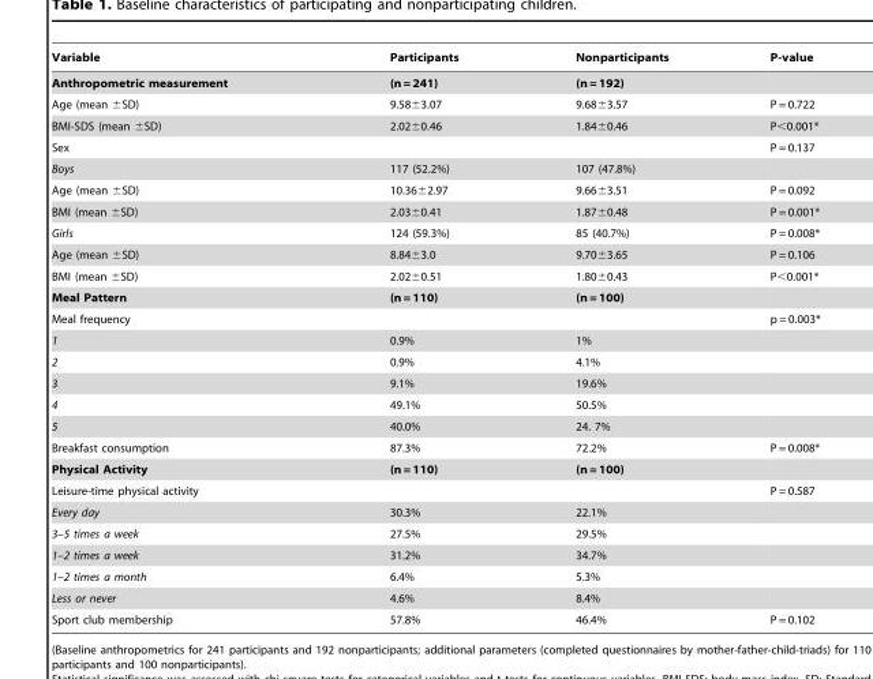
<table><thead><tr><td>Variable</td><td>Participants</td><td>Nonparticipants</td><td>P-value</td></tr></thead><tbody><tr><td>Anthropometric measurement</td><td>(n = 241)</td><td>(n = 192)</td><td></td></tr><tr><td>Age (mean ±SD)</td><td>9.58±3.07</td><td>9.68±3.57</td><td>P = 0.722</td></tr><tr><td>BMI-SDS (mean ±SD)</td><td>2.02±0.46</td><td>1.84±0.46</td><td>P&lt;0.001*</td></tr><tr><td>Sex</td><td></td><td></td><td>P = 0.137</td></tr><tr><td>Boys</td><td>117 (52.2%)</td><td>107 (47.8%)</td><td></td></tr><tr><td>Age (mean ±SD)</td><td>10.36±2.97</td><td>9.66±3.51</td><td>P = 0.092</td></tr><tr><td>BMI (mean ±SD)</td><td>2.03±0.41</td><td>1.87±0.48</td><td>P = 0.001*</td></tr><tr><td>Girls</td><td>124 (59.3%)</td><td>85 (40.7%)</td><td>P = 0.008*</td></tr><tr><td>Age (mean ±SD)</td><td>8.84±3.0</td><td>9.70±3.65</td><td>P = 0.106</td></tr><tr><td>BMI (mean ±SD)</td><td>2.02±0.51</td><td>1.80±0.43</td><td>P&lt;0.001*</td></tr><tr><td>Meal Pattern</td><td>(n = 110)</td><td>(n = 100)</td><td></td></tr><tr><td>Meal frequency</td><td></td><td></td><td>p = 0.003*</td></tr><tr><td>1</td><td>0.9%</td><td>1%</td><td></td></tr><tr><td>2</td><td>0.9%</td><td>4.1%</td><td></td></tr><tr><td>3</td><td>9.1%</td><td>19.6%</td><td></td></tr><tr><td>4</td><td>49.1%</td><td>50.5%</td><td></td></tr><tr><td>5</td><td>40.0%</td><td>24. 7%</td><td></td></tr><tr><td>Breakfast consumption</td><td>87.3%</td><td>72.2%</td><td>P = 0.008*</td></tr><tr><td>Physical Activity</td><td>(n = 110)</td><td>(n = 100)</td><td></td></tr><tr><td>Leisure-time physical activity</td><td></td><td></td><td>P = 0.587</td></tr><tr><td>Every day</td><td>30.3%</td><td>22.1%</td><td></td></tr><tr><td>3–5 times a week</td><td>27.5%</td><td>29.5%</td><td></td></tr><tr><td>1–2 times a week</td><td>31.2%</td><td>34.7%</td><td></td></tr><tr><td>1–2 times a month</td><td>6.4%</td><td>5.3%</td><td></td></tr><tr><td>Less or never</td><td>4.6%</td><td>8.4%</td><td></td></tr><tr><td>Sport club membership</td><td>57.8%</td><td>46.4%</td><td>P = 0.102</td></tr></tbody></table>